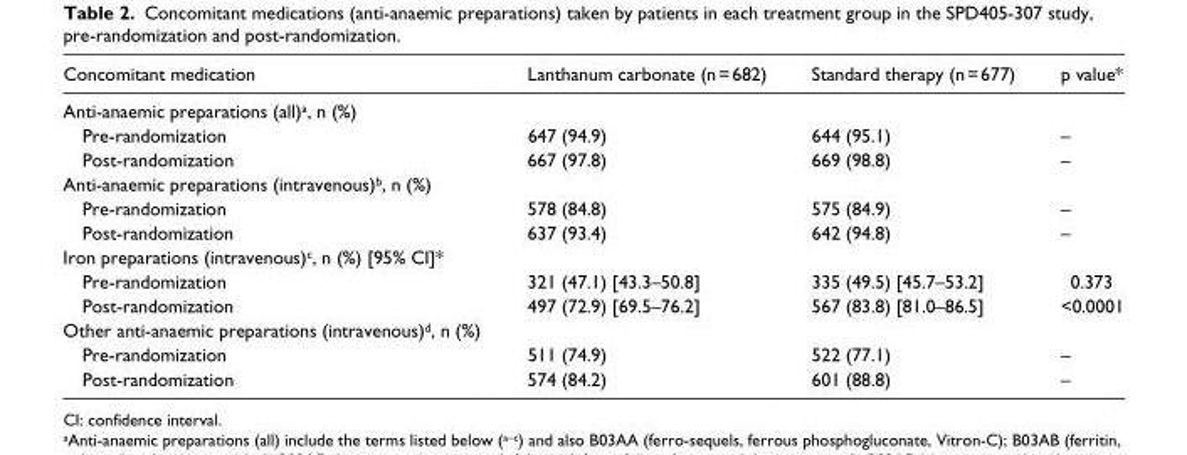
<table><thead><tr><td>Concomitant medication</td><td>Lanthanum carbonate (n = 682)</td><td>Standard therapy (n = 677)</td><td>p value*</td></tr></thead><tbody><tr><td colspan="4">Anti-anaemic preparations (all)<sup>a</sup>, n (%)</td></tr><tr><td>Pre-randomization</td><td>647 (94.9)</td><td>644 (95.1)</td><td>–</td></tr><tr><td>Post-randomization</td><td>667 (97.8)</td><td>669 (98.8)</td><td>–</td></tr><tr><td colspan="4">Anti-anaemic preparations (intravenous)<sup>b</sup>, n (%)</td></tr><tr><td>Pre-randomization</td><td>578 (84.8)</td><td>575 (84.9)</td><td>–</td></tr><tr><td>Post-randomization</td><td>637 (93.4)</td><td>642 (94.8)</td><td>–</td></tr><tr><td colspan="4">Iron preparations (intravenous)<sup>c</sup>, n (%) [95% CI]*</td></tr><tr><td>Pre-randomization</td><td>321 (47.1) [43.3–50.8]</td><td>335 (49.5) [45.7–53.2]</td><td>0.373</td></tr><tr><td>Post-randomization</td><td>497 (72.9) [69.5–76.2]</td><td>567 (83.8) [81.0–86.5]</td><td>&lt;0.0001</td></tr><tr><td colspan="4">Other anti-anaemic preparations (intravenous)<sup>d</sup>, n (%)</td></tr><tr><td>Pre-randomization</td><td>511 (74.9)</td><td>522 (77.1)</td><td>–</td></tr><tr><td>Post-randomization</td><td>574 (84.2)</td><td>601 (88.8)</td><td>–</td></tr></tbody></table>